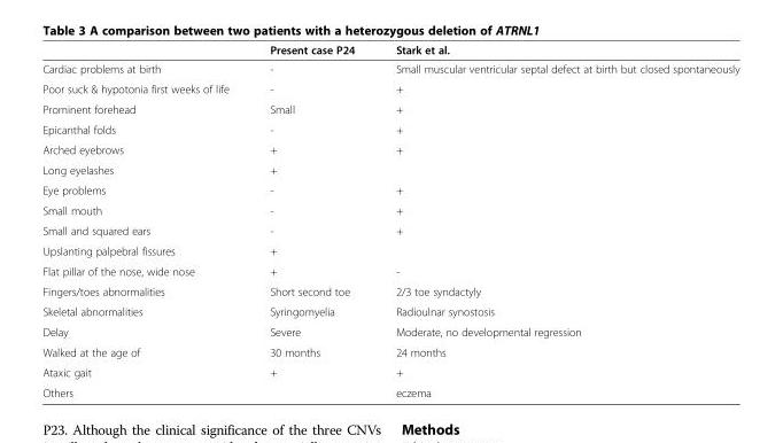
<table><thead><tr><td></td><td>Present case P24</td><td>Stark et al.</td></tr></thead><tbody><tr><td>Cardiac problems at birth</td><td>-</td><td>Small muscular ventricular septal defect at birth but closed spontaneously</td></tr><tr><td>Poor suck &amp; hypotonia first weeks of life</td><td>-</td><td>+</td></tr><tr><td>Prominent forehead</td><td>Small</td><td>+</td></tr><tr><td>Epicanthal folds</td><td>-</td><td>+</td></tr><tr><td>Arched eyebrows</td><td>+</td><td>+</td></tr><tr><td>Long eyelashes</td><td>+</td><td></td></tr><tr><td>Eye problems</td><td>-</td><td>+</td></tr><tr><td>Small mouth</td><td>-</td><td>+</td></tr><tr><td>Small and squared ears</td><td>-</td><td>+</td></tr><tr><td>Upslanting palpebral fissures</td><td>+</td><td></td></tr><tr><td>Flat pillar of the nose, wide nose</td><td>+</td><td>-</td></tr><tr><td>Fingers/toes abnormalities</td><td>Short second toe</td><td>2/3 toe syndactyly</td></tr><tr><td>Skeletal abnormalities</td><td>Syringomyelia</td><td>Radioulnar synostosis</td></tr><tr><td>Delay</td><td>Severe</td><td>Moderate, no developmental regression</td></tr><tr><td>Walked at the age of</td><td>30 months</td><td>24 months</td></tr><tr><td>Ataxic gait</td><td>+</td><td>+</td></tr><tr><td>Others</td><td></td><td>eczema</td></tr></tbody></table>